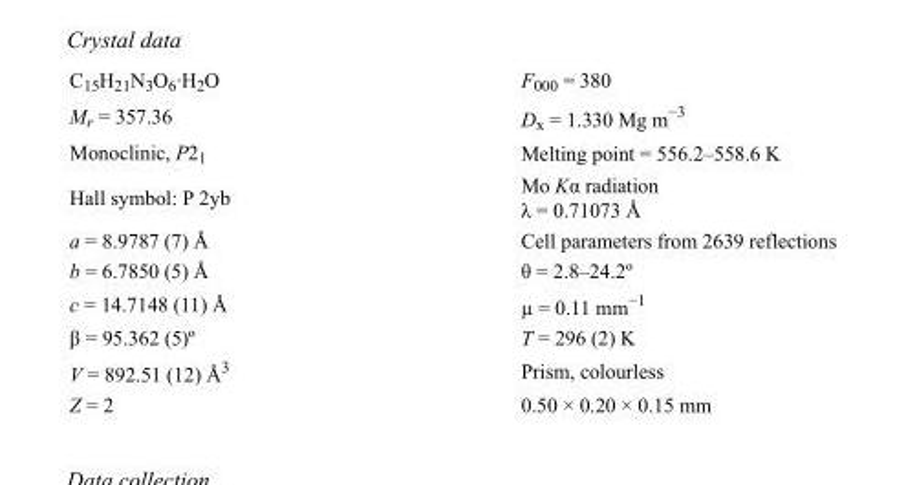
<table><tbody><tr><td>C<sub>15</sub>H<sub>21</sub>N<sub>3</sub>O<sub>6</sub>·H<sub>2</sub>O</td><td>F<sub>000</sub> = 380</td></tr><tr><td>M<sub>r</sub> = 357.36</td><td>D<sub>x</sub> = 1.330 Mg m<sup>−3</sup></td></tr><tr><td>Monoclinic, P2<sub>1</sub></td><td>Melting point = 556.2–558.6 K</td></tr><tr><td>Hall symbol: P 2yb</td><td>Mo Kα radiation λ = 0.71073 Å</td></tr><tr><td>a = 8.9787 (7) Å</td><td>Cell parameters from 2639 reflections</td></tr><tr><td>b = 6.7850 (5) Å</td><td>θ = 2.8–24.2º</td></tr><tr><td>c = 14.7148 (11) Å</td><td>µ = 0.11 mm<sup>−1</sup></td></tr><tr><td>β = 95.362 (5)º</td><td>T = 296 (2) K</td></tr><tr><td>V = 892.51 (12) Å<sup>3</sup></td><td>Prism, colourless</td></tr><tr><td>Z = 2</td><td>0.50 × 0.20 × 0.15 mm</td></tr></tbody></table>